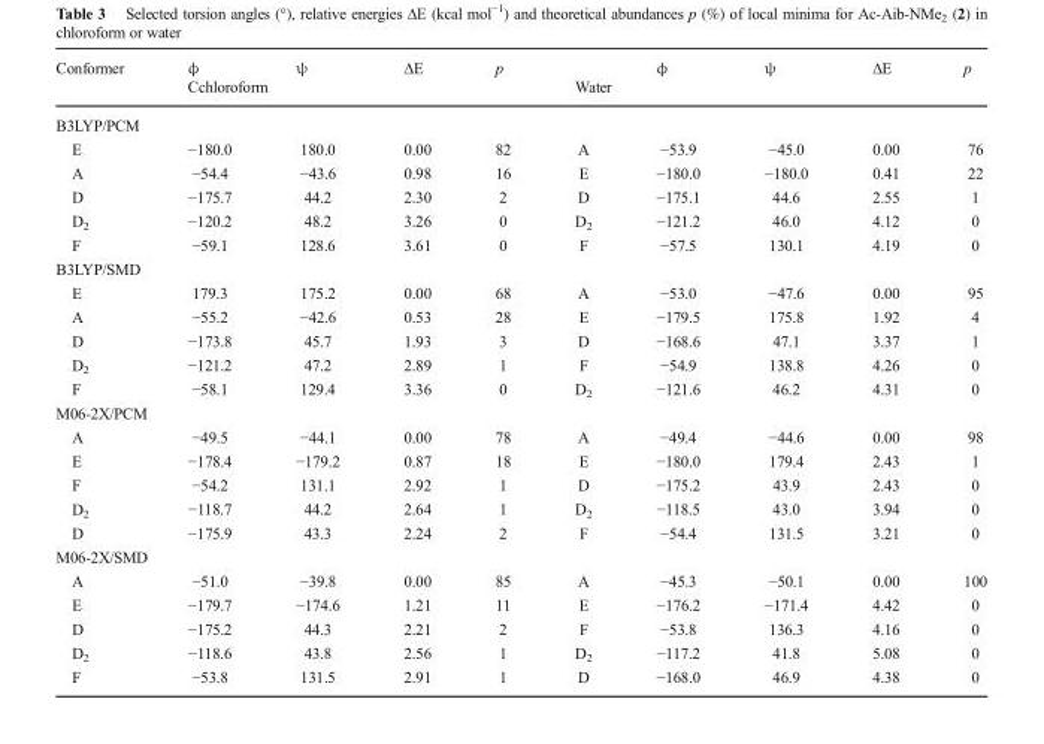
<table><thead><tr><td rowspan="2">Conformer</td><td>ϕ</td><td>ψ</td><td>ΔE</td><td>p</td><td></td><td>ϕ</td><td>ψ</td><td>ΔE</td><td>p</td></tr><tr><td colspan="4">Cchloroform</td><td colspan="5">Water</td></tr></thead><tbody><tr><td colspan="10">B3LYP/PCM</td></tr><tr><td>E</td><td>−180.0</td><td>180.0</td><td>0.00</td><td>82</td><td>A</td><td>−53.9</td><td>−45.0</td><td>0.00</td><td>76</td></tr><tr><td>A</td><td>−54.4</td><td>−43.6</td><td>0.98</td><td>16</td><td>E</td><td>−180.0</td><td>−180.0</td><td>0.41</td><td>22</td></tr><tr><td>D</td><td>−175.7</td><td>44.2</td><td>2.30</td><td>2</td><td>D</td><td>−175.1</td><td>44.6</td><td>2.55</td><td>1</td></tr><tr><td>D<sub>2</sub></td><td>−120.2</td><td>48.2</td><td>3.26</td><td>0</td><td>D<sub>2</sub></td><td>−121.2</td><td>46.0</td><td>4.12</td><td>0</td></tr><tr><td>F</td><td>−59.1</td><td>128.6</td><td>3.61</td><td>0</td><td>F</td><td>−57.5</td><td>130.1</td><td>4.19</td><td>0</td></tr><tr><td colspan="10">B3LYP/SMD</td></tr><tr><td>E</td><td>179.3</td><td>175.2</td><td>0.00</td><td>68</td><td>A</td><td>−53.0</td><td>−47.6</td><td>0.00</td><td>95</td></tr><tr><td>A</td><td>−55.2</td><td>−42.6</td><td>0.53</td><td>28</td><td>E</td><td>−179.5</td><td>175.8</td><td>1.92</td><td>4</td></tr><tr><td>D</td><td>−173.8</td><td>45.7</td><td>1.93</td><td>3</td><td>D</td><td>−168.6</td><td>47.1</td><td>3.37</td><td>1</td></tr><tr><td>D<sub>2</sub></td><td>−121.2</td><td>47.2</td><td>2.89</td><td>1</td><td>F</td><td>−54.9</td><td>138.8</td><td>4.26</td><td>0</td></tr><tr><td>F</td><td>−58.1</td><td>129.4</td><td>3.36</td><td>0</td><td>D<sub>2</sub></td><td>−121.6</td><td>46.2</td><td>4.31</td><td>0</td></tr><tr><td colspan="10">M06-2X/PCM</td></tr><tr><td>A</td><td>−49.5</td><td>−44.1</td><td>0.00</td><td>78</td><td>A</td><td>−49.4</td><td>−44.6</td><td>0.00</td><td>98</td></tr><tr><td>E</td><td>−178.4</td><td>−179.2</td><td>0.87</td><td>18</td><td>E</td><td>−180.0</td><td>179.4</td><td>2.43</td><td>1</td></tr><tr><td>F</td><td>−54.2</td><td>131.1</td><td>2.92</td><td>1</td><td>D</td><td>−175.2</td><td>43.9</td><td>2.43</td><td>0</td></tr><tr><td>D<sub>2</sub></td><td>−118.7</td><td>44.2</td><td>2.64</td><td>1</td><td>D<sub>2</sub></td><td>−118.5</td><td>43.0</td><td>3.94</td><td>0</td></tr><tr><td>D</td><td>−175.9</td><td>43.3</td><td>2.24</td><td>2</td><td>F</td><td>−54.4</td><td>131.5</td><td>3.21</td><td>0</td></tr><tr><td colspan="10">M06-2X/SMD</td></tr><tr><td>A</td><td>−51.0</td><td>−39.8</td><td>0.00</td><td>85</td><td>A</td><td>−45.3</td><td>−50.1</td><td>0.00</td><td>100</td></tr><tr><td>E</td><td>−179.7</td><td>−174.6</td><td>1.21</td><td>11</td><td>E</td><td>−176.2</td><td>−171.4</td><td>4.42</td><td>0</td></tr><tr><td>D</td><td>−175.2</td><td>44.3</td><td>2.21</td><td>2</td><td>F</td><td>−53.8</td><td>136.3</td><td>4.16</td><td>0</td></tr><tr><td>D<sub>2</sub></td><td>−118.6</td><td>43.8</td><td>2.56</td><td>1</td><td>D<sub>2</sub></td><td>−117.2</td><td>41.8</td><td>5.08</td><td>0</td></tr><tr><td>F</td><td>−53.8</td><td>131.5</td><td>2.91</td><td>1</td><td>D</td><td>−168.0</td><td>46.9</td><td>4.38</td><td>0</td></tr></tbody></table>